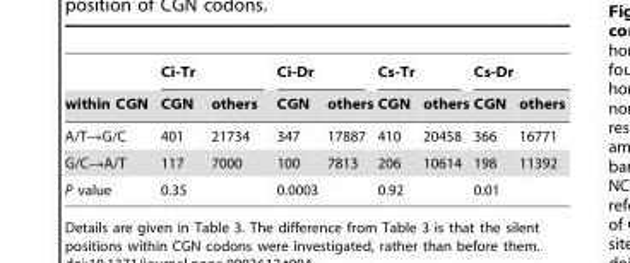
<table><thead><tr><td rowspan="2">within CGN</td><td colspan="2">Ci-Tr</td><td colspan="2">Ci-Dr</td><td colspan="2">Cs-Tr</td><td colspan="2">Cs-Dr</td></tr><tr><td>CGN</td><td>others</td><td>CGN</td><td>others</td><td>CGN</td><td>others</td><td>CGN</td><td>others</td></tr></thead><tbody><tr><td>A/T→G/C</td><td>401</td><td>21734</td><td>347</td><td>17887</td><td>410</td><td>20458</td><td>366</td><td>16771</td></tr><tr><td>G/C→A/T</td><td>117</td><td>7000</td><td>100</td><td>7813</td><td>206</td><td>10614</td><td>198</td><td>11392</td></tr><tr><td>P value</td><td colspan="2">0.35</td><td colspan="2">0.0003</td><td colspan="2">0.92</td><td colspan="2">0.01</td></tr></tbody></table>